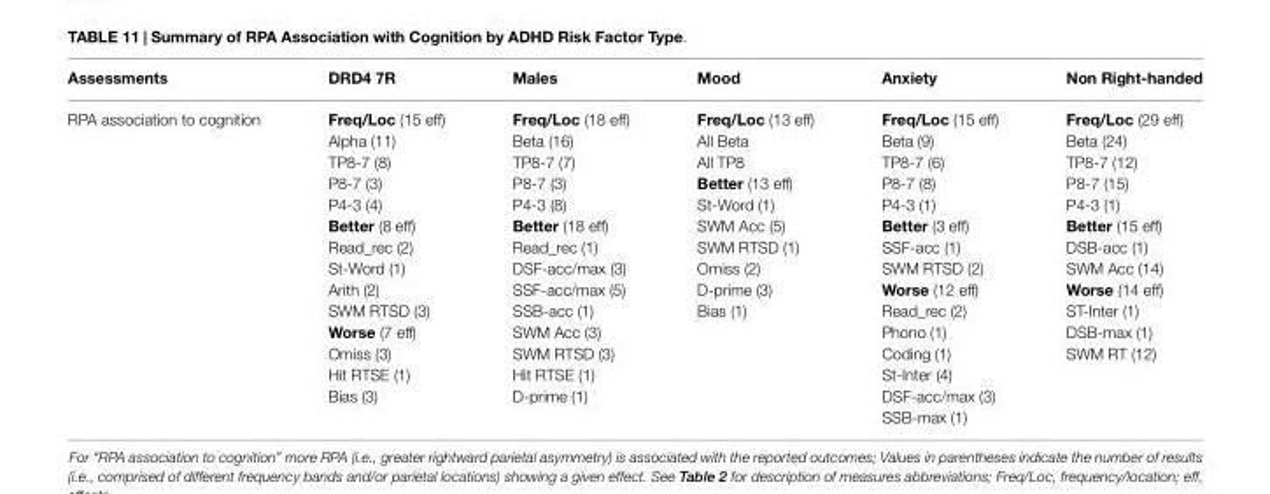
<table><thead><tr><td>Assessments</td><td>DRD4 7R</td><td>Males</td><td>Mood</td><td>Anxiety</td><td>Non Right-handed</td></tr></thead><tbody><tr><td rowspan="15">RPA association to cognition</td><td>Freq/Loc (15 eff)</td><td>Freq/Loc (18 eff)</td><td>Freq/Loc (13 eff)</td><td>Freq/Loc (15 eff)</td><td>Freq/Loc (29 eff)</td></tr><tr><td>Alpha (11)</td><td>Beta (16)</td><td>All Beta</td><td>Beta (9)</td><td>Beta (24)</td></tr><tr><td>TP8-7 (8)</td><td>TP8-7 (7)</td><td>All TP8</td><td>TP8-7 (6)</td><td>TP8-7 (12)</td></tr><tr><td>P8-7 (3)</td><td>P8-7 (3)</td><td>Better (13 eff)</td><td>P8-7 (8)</td><td>P8-7 (15)</td></tr><tr><td>P4-3 (4)</td><td>P4-3 (8)</td><td>St-Word (1)</td><td>P4-3 (1)</td><td>P4-3 (1)</td></tr><tr><td>Better (8 eff)</td><td>Better (18 eff)</td><td>SWM Acc (5)</td><td>Better (3 eff)</td><td>Better (15 eff)</td></tr><tr><td>Read_rec (2)</td><td>Read_rec (1)</td><td>SWM RTSD (1)</td><td>SSF-acc (1)</td><td>DSB-acc (1)</td></tr><tr><td>St-Word (1)</td><td>DSF-acc/max (3)</td><td>Omiss (2)</td><td>SWM RTSD (2)</td><td>SWM Acc (14)</td></tr><tr><td>Arith (2)</td><td>SSF-acc/max (5)</td><td>D-prime (3)</td><td>Worse (12 eff)</td><td>Worse (14 eff)</td></tr><tr><td>SWM RTSD (3)</td><td>SSB-acc (1)</td><td>Bias (1)</td><td>Read_rec (2)</td><td>ST-Inter (1)</td></tr><tr><td>Worse (7 eff)</td><td>SWM Acc (3)</td><td></td><td>Phono (1)</td><td>DSB-max (1)</td></tr><tr><td>Omiss (3)</td><td>SWM RTSD (3)</td><td></td><td>Coding (1)</td><td>SWM RT (12)</td></tr><tr><td>Hit RTSE (1)</td><td>Hit RTSE (1)</td><td></td><td>St-Inter (4)</td><td></td></tr><tr><td>Bias (3)</td><td>D-prime (1)</td><td></td><td>DSF-acc/max (3)</td><td></td></tr><tr><td></td><td></td><td></td><td>SSB-max (1)</td><td></td></tr></tbody></table>